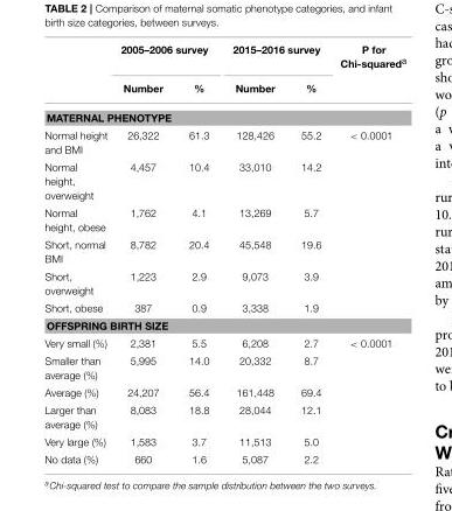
<table><thead><tr><td rowspan="2"></td><td colspan="2">2005–2006 survey</td><td colspan="2">2015–2016 survey</td><td rowspan="2">P for Chi-squared<sup>a</sup></td></tr><tr><td>Number</td><td>%</td><td>Number</td><td>%</td></tr></thead><tbody><tr><td colspan="6">MATERNAL PHENOTYPE</td></tr><tr><td>Normal height and BMI</td><td>26,322</td><td>61.3</td><td>128,426</td><td>55.2</td><td>&lt; 0.0001</td></tr><tr><td>Normal height, overweight</td><td>4,457</td><td>10.4</td><td>33,010</td><td>14.2</td><td></td></tr><tr><td>Normal height, obese</td><td>1,762</td><td>4.1</td><td>13,269</td><td>5.7</td><td></td></tr><tr><td>Short, normal BMI</td><td>8,782</td><td>20.4</td><td>45,548</td><td>19.6</td><td></td></tr><tr><td>Short, overweight</td><td>1,223</td><td>2.9</td><td>9,073</td><td>3.9</td><td></td></tr><tr><td>Short, obese</td><td>387</td><td>0.9</td><td>3,338</td><td>1.9</td><td></td></tr><tr><td colspan="6">OFFSPRING BIRTH SIZE</td></tr><tr><td>Very small (%)</td><td>2,381</td><td>5.5</td><td>6,208</td><td>2.7</td><td>&lt; 0.0001</td></tr><tr><td>Smaller than average (%)</td><td>5,995</td><td>14.0</td><td>20,332</td><td>8.7</td><td></td></tr><tr><td>Average (%)</td><td>24,207</td><td>56.4</td><td>161,448</td><td>69.4</td><td></td></tr><tr><td>Larger than average (%)</td><td>8,083</td><td>18.8</td><td>28,044</td><td>12.1</td><td></td></tr><tr><td>Very large (%)</td><td>1,583</td><td>3.7</td><td>11,513</td><td>5.0</td><td></td></tr><tr><td>No data (%)</td><td>660</td><td>1.6</td><td>5,087</td><td>2.2</td><td></td></tr></tbody></table>